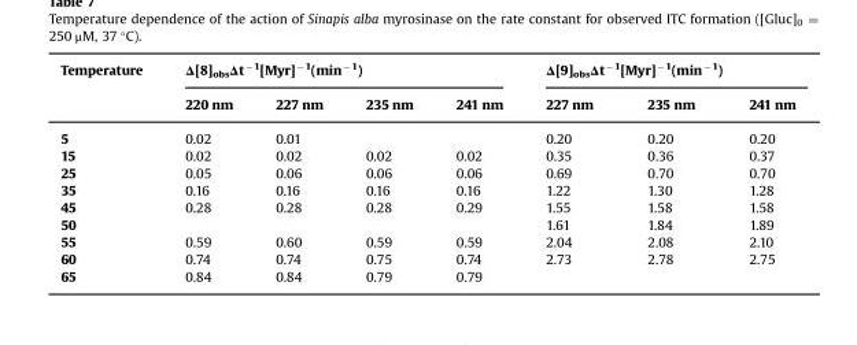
<table><thead><tr><td rowspan="2">Temperature</td><td colspan="4">Δ[8]<sub>obs</sub>Δt<sup>−1</sup>[Myr]<sup>−1</sup>(min<sup>−1</sup>)</td><td colspan="3">Δ[9]<sub>obs</sub>Δt<sup>−1</sup>[Myr]<sup>−1</sup>(min<sup>−1</sup>)</td></tr><tr><td>220 nm</td><td>227 nm</td><td>235 nm</td><td>241 nm</td><td>227 nm</td><td>235 nm</td><td>241 nm</td></tr></thead><tbody><tr><td>5</td><td>0.02</td><td>0.01</td><td></td><td></td><td>0.20</td><td>0.20</td><td>0.20</td></tr><tr><td>15</td><td>0.02</td><td>0.02</td><td>0.02</td><td>0.02</td><td>0.35</td><td>0.36</td><td>0.37</td></tr><tr><td>25</td><td>0.05</td><td>0.06</td><td>0.06</td><td>0.06</td><td>0.69</td><td>0.70</td><td>0.70</td></tr><tr><td>35</td><td>0.16</td><td>0.16</td><td>0.16</td><td>0.16</td><td>1.22</td><td>1.30</td><td>1.28</td></tr><tr><td>45</td><td>0.28</td><td>0.28</td><td>0.28</td><td>0.29</td><td>1.55</td><td>1.58</td><td>1.58</td></tr><tr><td>50</td><td></td><td></td><td></td><td></td><td>1.61</td><td>1.84</td><td>1.89</td></tr><tr><td>55</td><td>0.59</td><td>0.60</td><td>0.59</td><td>0.59</td><td>2.04</td><td>2.08</td><td>2.10</td></tr><tr><td>60</td><td>0.74</td><td>0.74</td><td>0.75</td><td>0.74</td><td>2.73</td><td>2.78</td><td>2.75</td></tr><tr><td>65</td><td>0.84</td><td>0.84</td><td>0.79</td><td>0.79</td><td></td><td></td><td></td></tr></tbody></table>